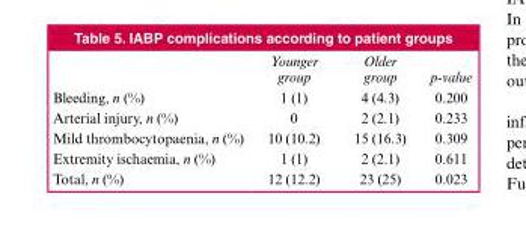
<table><thead><tr><td></td><td>Younger group</td><td>Older group</td><td>p-value</td></tr></thead><tbody><tr><td>Bleeding, n (%)</td><td>1 (1)</td><td>4 (4.3)</td><td>0.200</td></tr><tr><td>Arterial injury, n (%)</td><td>0</td><td>2 (2.1)</td><td>0.233</td></tr><tr><td>Mild thrombocytopaenia, n (%)</td><td>10 (10.2)</td><td>15 (16.3)</td><td>0.309</td></tr><tr><td>Extremity ischaemia, n (%)</td><td>1 (1)</td><td>2 (2.1)</td><td>0.611</td></tr><tr><td>Total, n (%)</td><td>12 (12.2)</td><td>23 (25)</td><td>0.023</td></tr></tbody></table>